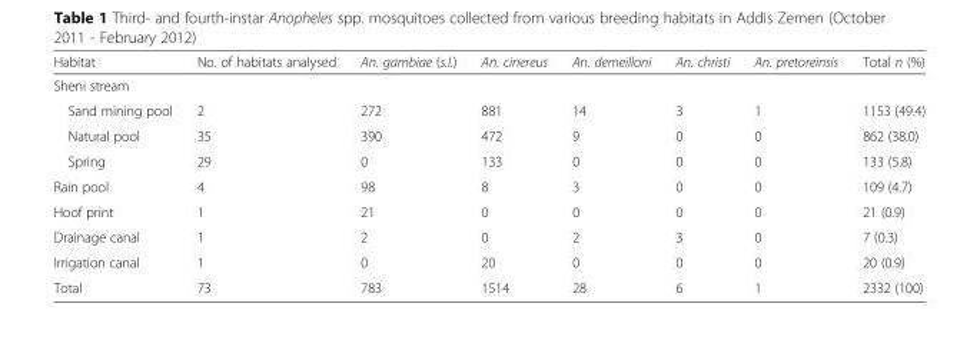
<table><thead><tr><td>Habitat</td><td>No. of habitats analysed</td><td>An. gambiae (s.l.)</td><td>An. cinereus</td><td>An. demeilloni</td><td>An. christi</td><td>An. pretoreinsis</td><td>Total n (%)</td></tr></thead><tbody><tr><td colspan="8">Sheni stream</td></tr><tr><td>Sand mining pool</td><td>2</td><td>272</td><td>881</td><td>14</td><td>3</td><td>1</td><td>1153 (49.4)</td></tr><tr><td>Natural pool</td><td>35</td><td>390</td><td>472</td><td>9</td><td>0</td><td>0</td><td>862 (38.0)</td></tr><tr><td>Spring</td><td>29</td><td>0</td><td>133</td><td>0</td><td>0</td><td>0</td><td>133 (5.8)</td></tr><tr><td>Rain pool</td><td>4</td><td>98</td><td>8</td><td>3</td><td>0</td><td>0</td><td>109 (4.7)</td></tr><tr><td>Hoof print</td><td>1</td><td>21</td><td>0</td><td>0</td><td>0</td><td>0</td><td>21 (0.9)</td></tr><tr><td>Drainage canal</td><td>1</td><td>2</td><td>0</td><td>2</td><td>3</td><td>0</td><td>7 (0.3)</td></tr><tr><td>Irrigation canal</td><td>1</td><td>0</td><td>20</td><td>0</td><td>0</td><td>0</td><td>20 (0.9)</td></tr><tr><td>Total</td><td>73</td><td>783</td><td>1514</td><td>28</td><td>6</td><td>1</td><td>2332 (100)</td></tr></tbody></table>